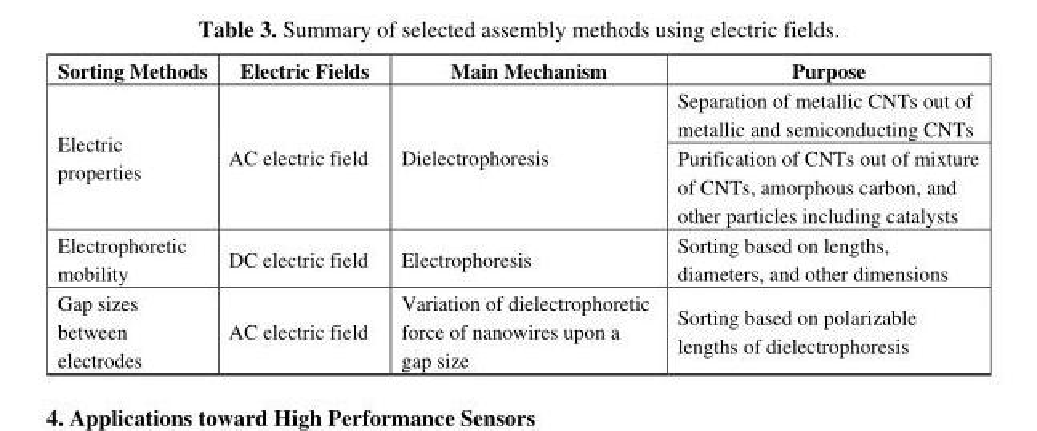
<table><thead><tr><td>Sorting Methods</td><td>Electric Fields</td><td>Main Mechanism</td><td>Purpose</td></tr></thead><tbody><tr><td rowspan="2">Electric properties</td><td rowspan="2">AC electric field</td><td rowspan="2">Dielectrophoresis</td><td>Separation of metallic CNTs out of metallic and semiconducting CNTs</td></tr><tr><td>Purification of CNTs out of mixture of CNTs, amorphous carbon, and other particles including catalysts</td></tr><tr><td>Electrophoretic mobility</td><td>DC electric field</td><td>Electrophoresis</td><td>Sorting based on lengths, diameters, and other dimensions</td></tr><tr><td>Gap sizes between electrodes</td><td>AC electric field</td><td>Variation of dielectrophoretic force of nanowires upon a gap size</td><td>Sorting based on polarizable lengths of dielectrophoresis</td></tr></tbody></table>